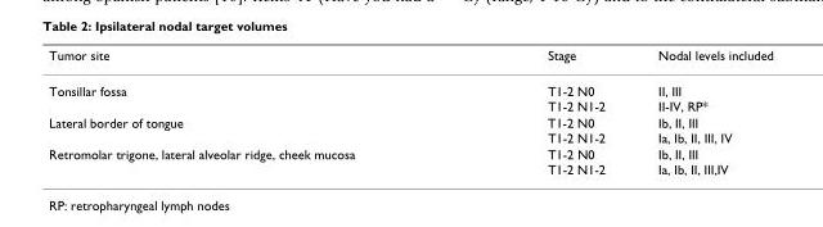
<table><thead><tr><td>Tumor site</td><td>Stage</td><td>Nodal levels included</td></tr></thead><tbody><tr><td>Tonsillar fossa</td><td>T1-2 N0 T1-2 N1-2</td><td>II, III II-IV, RP*</td></tr><tr><td>Lateral border of tongue</td><td>T1-2 N0 T1-2 N1-2</td><td>Ib, II, III Ia, Ib, II, III, IV</td></tr><tr><td>Retromolar trigone, lateral alveolar ridge, cheek mucosa</td><td>T1-2 N0 T1-2 N1-2</td><td>Ib, II, III Ia, Ib, II, III,IV</td></tr></tbody></table>